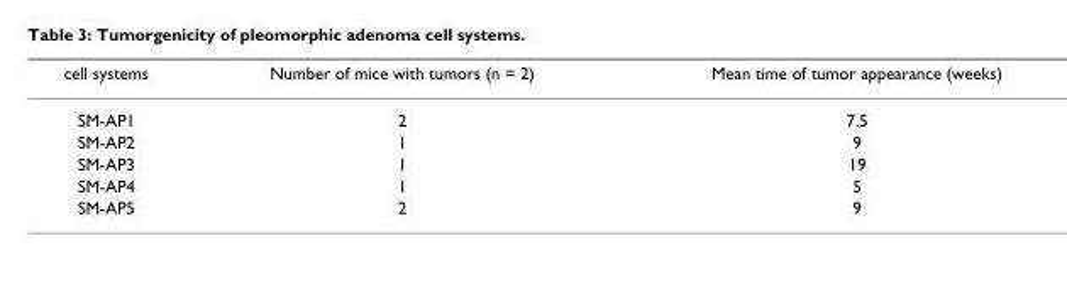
<table><thead><tr><td>cell systems</td><td>Number of mice with tumors (n = 2)</td><td>Mean time of tumor appearance (weeks)</td></tr></thead><tbody><tr><td>SM-AP1</td><td>2</td><td>7.5</td></tr><tr><td>SM-AP2</td><td>1</td><td>9</td></tr><tr><td>SM-AP3</td><td>1</td><td>19</td></tr><tr><td>SM-AP4</td><td>1</td><td>5</td></tr><tr><td>SM-AP5</td><td>2</td><td>9</td></tr></tbody></table>